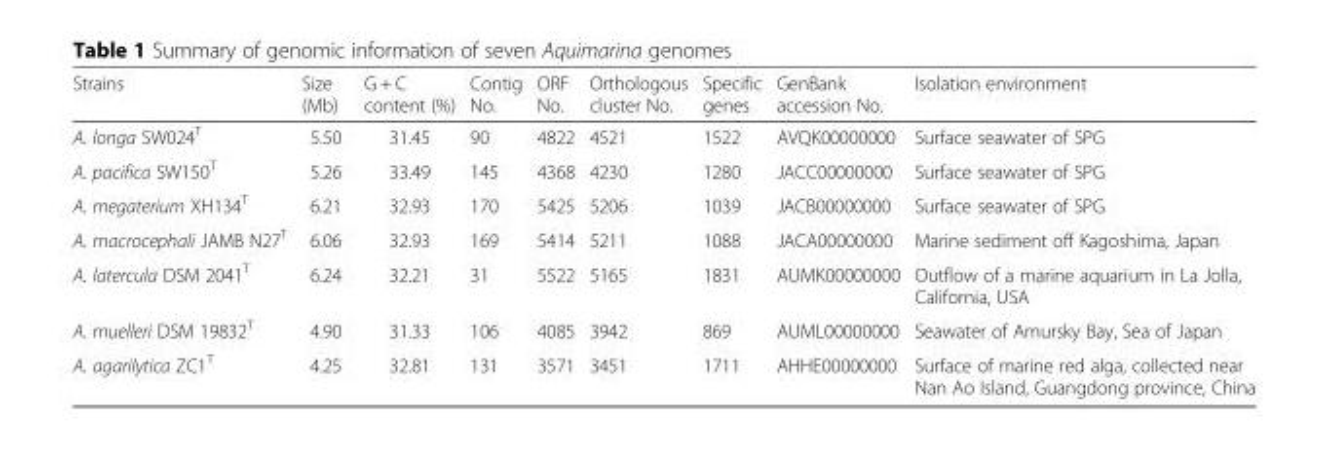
<table><thead><tr><td>Strains</td><td>Size (Mb)</td><td>G + C content (%)</td><td>Contig No.</td><td>ORF No.</td><td>Orthologous cluster No.</td><td>Specific genes</td><td>GenBank accession No.</td><td>Isolation environment</td></tr></thead><tbody><tr><td>A. longa SW024<sup>T</sup></td><td>5.50</td><td>31.45</td><td>90</td><td>4822</td><td>4521</td><td>1522</td><td>AVQK00000000</td><td>Surface seawater of SPG</td></tr><tr><td>A. pacifica SW150<sup>T</sup></td><td>5.26</td><td>33.49</td><td>145</td><td>4368</td><td>4230</td><td>1280</td><td>JACC00000000</td><td>Surface seawater of SPG</td></tr><tr><td>A. megaterium XH134<sup>T</sup></td><td>6.21</td><td>32.93</td><td>170</td><td>5425</td><td>5206</td><td>1039</td><td>JACB00000000</td><td>Surface seawater of SPG</td></tr><tr><td>A. macrocephali JAMB N27<sup>T</sup></td><td>6.06</td><td>32.93</td><td>169</td><td>5414</td><td>5211</td><td>1088</td><td>JACA00000000</td><td>Marine sediment off Kagoshima, Japan</td></tr><tr><td>A. latercula DSM 2041<sup>T</sup></td><td>6.24</td><td>32.21</td><td>31</td><td>5522</td><td>5165</td><td>1831</td><td>AUMK00000000</td><td>Outflow of a marine aquarium in La Jolla, California, USA</td></tr><tr><td>A. muelleri DSM 19832<sup>T</sup></td><td>4.90</td><td>31.33</td><td>106</td><td>4085</td><td>3942</td><td>869</td><td>AUML00000000</td><td>Seawater of Amursky Bay, Sea of Japan</td></tr><tr><td>A. agarilytica ZC1<sup>T</sup></td><td>4.25</td><td>32.81</td><td>131</td><td>3571</td><td>3451</td><td>1711</td><td>AHHE00000000</td><td>Surface of marine red alga, collected near Nan Ao Island, Guangdong province, China</td></tr></tbody></table>